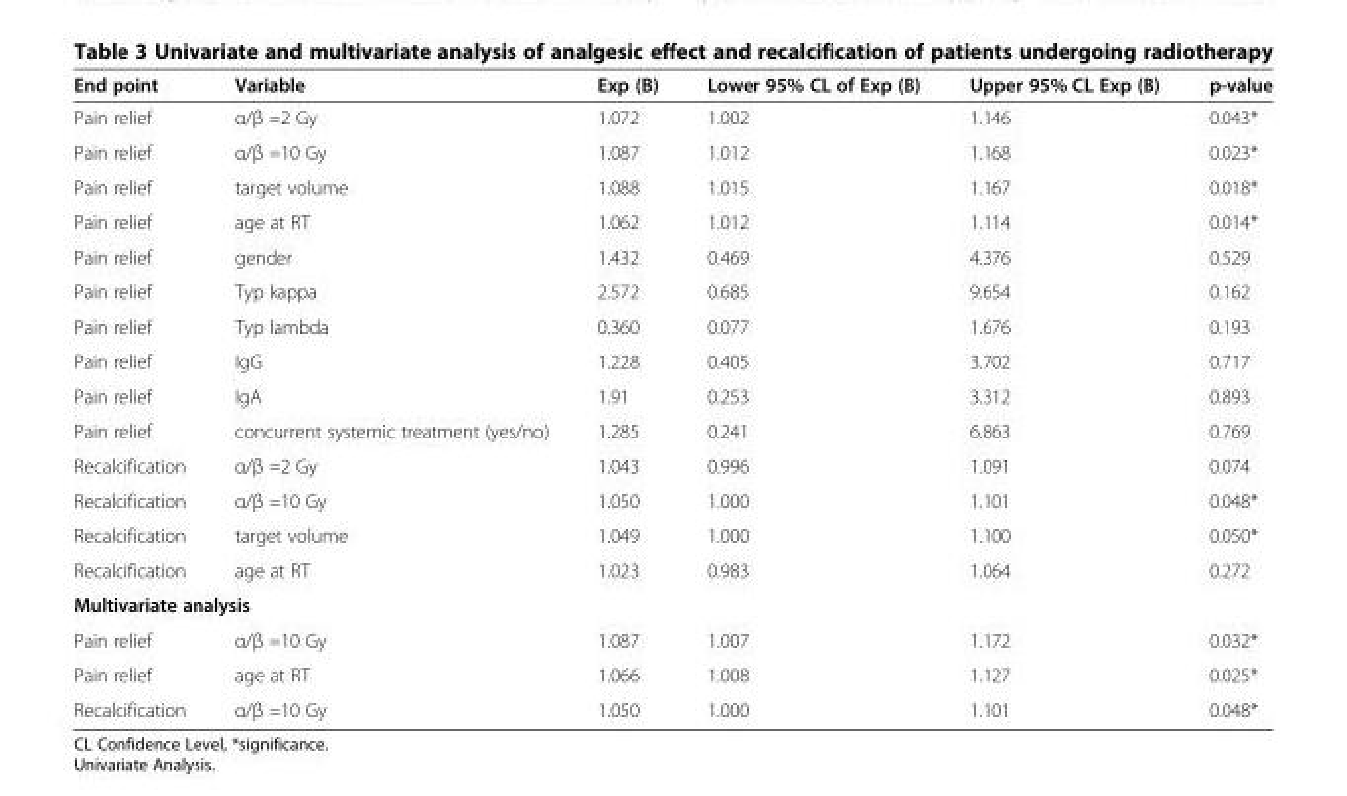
<table><thead><tr><td>End point</td><td>Variable</td><td>Exp (B)</td><td>Lower 95% CL of Exp (B)</td><td>Upper 95% CL Exp (B)</td><td>p-value</td></tr></thead><tbody><tr><td>Pain relief</td><td>α/β =2 Gy</td><td>1.072</td><td>1.002</td><td>1.146</td><td>0.043*</td></tr><tr><td>Pain relief</td><td>α/β =10 Gy</td><td>1.087</td><td>1.012</td><td>1.168</td><td>0.023*</td></tr><tr><td>Pain relief</td><td>target volume</td><td>1.088</td><td>1.015</td><td>1.167</td><td>0.018*</td></tr><tr><td>Pain relief</td><td>age at RT</td><td>1.062</td><td>1.012</td><td>1.114</td><td>0.014*</td></tr><tr><td>Pain relief</td><td>gender</td><td>1.432</td><td>0.469</td><td>4.376</td><td>0.529</td></tr><tr><td>Pain relief</td><td>Typ kappa</td><td>2.572</td><td>0.685</td><td>9.654</td><td>0.162</td></tr><tr><td>Pain relief</td><td>Typ lambda</td><td>0.360</td><td>0.077</td><td>1.676</td><td>0.193</td></tr><tr><td>Pain relief</td><td>IgG</td><td>1.228</td><td>0.405</td><td>3.702</td><td>0.717</td></tr><tr><td>Pain relief</td><td>IgA</td><td>1.91</td><td>0.253</td><td>3.312</td><td>0.893</td></tr><tr><td>Pain relief</td><td>concurrent systemic treatment (yes/no)</td><td>1.285</td><td>0.241</td><td>6.863</td><td>0.769</td></tr><tr><td>Recalcification</td><td>α/β =2 Gy</td><td>1.043</td><td>0.996</td><td>1.091</td><td>0.074</td></tr><tr><td>Recalcification</td><td>α/β =10 Gy</td><td>1.050</td><td>1.000</td><td>1.101</td><td>0.048*</td></tr><tr><td>Recalcification</td><td>target volume</td><td>1.049</td><td>1.000</td><td>1.100</td><td>0.050*</td></tr><tr><td>Recalcification</td><td>age at RT</td><td>1.023</td><td>0.983</td><td>1.064</td><td>0.272</td></tr><tr><td colspan="6">Multivariate analysis</td></tr><tr><td>Pain relief</td><td>α/β =10 Gy</td><td>1.087</td><td>1.007</td><td>1.172</td><td>0.032*</td></tr><tr><td>Pain relief</td><td>age at RT</td><td>1.066</td><td>1.008</td><td>1.127</td><td>0.025*</td></tr><tr><td>Recalcification</td><td>α/β =10 Gy</td><td>1.050</td><td>1.000</td><td>1.101</td><td>0.048*</td></tr></tbody></table>